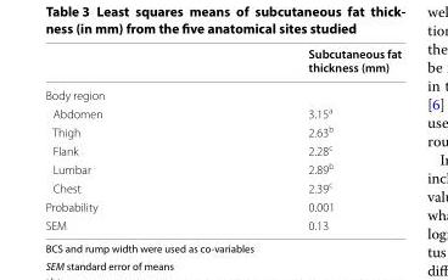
<table><thead><tr><td></td><td>Subcutaneous fat thickness (mm)</td></tr></thead><tbody><tr><td colspan="2">Body region</td></tr><tr><td>Abdomen</td><td>3.15<sup>a</sup></td></tr><tr><td>Thigh</td><td>2.63<sup>b</sup></td></tr><tr><td>Flank</td><td>2.28<sup>c</sup></td></tr><tr><td>Lumbar</td><td>2.89<sup>b</sup></td></tr><tr><td>Chest</td><td>2.39<sup>c</sup></td></tr><tr><td>Probability</td><td>0.001</td></tr><tr><td>SEM</td><td>0.13</td></tr></tbody></table>